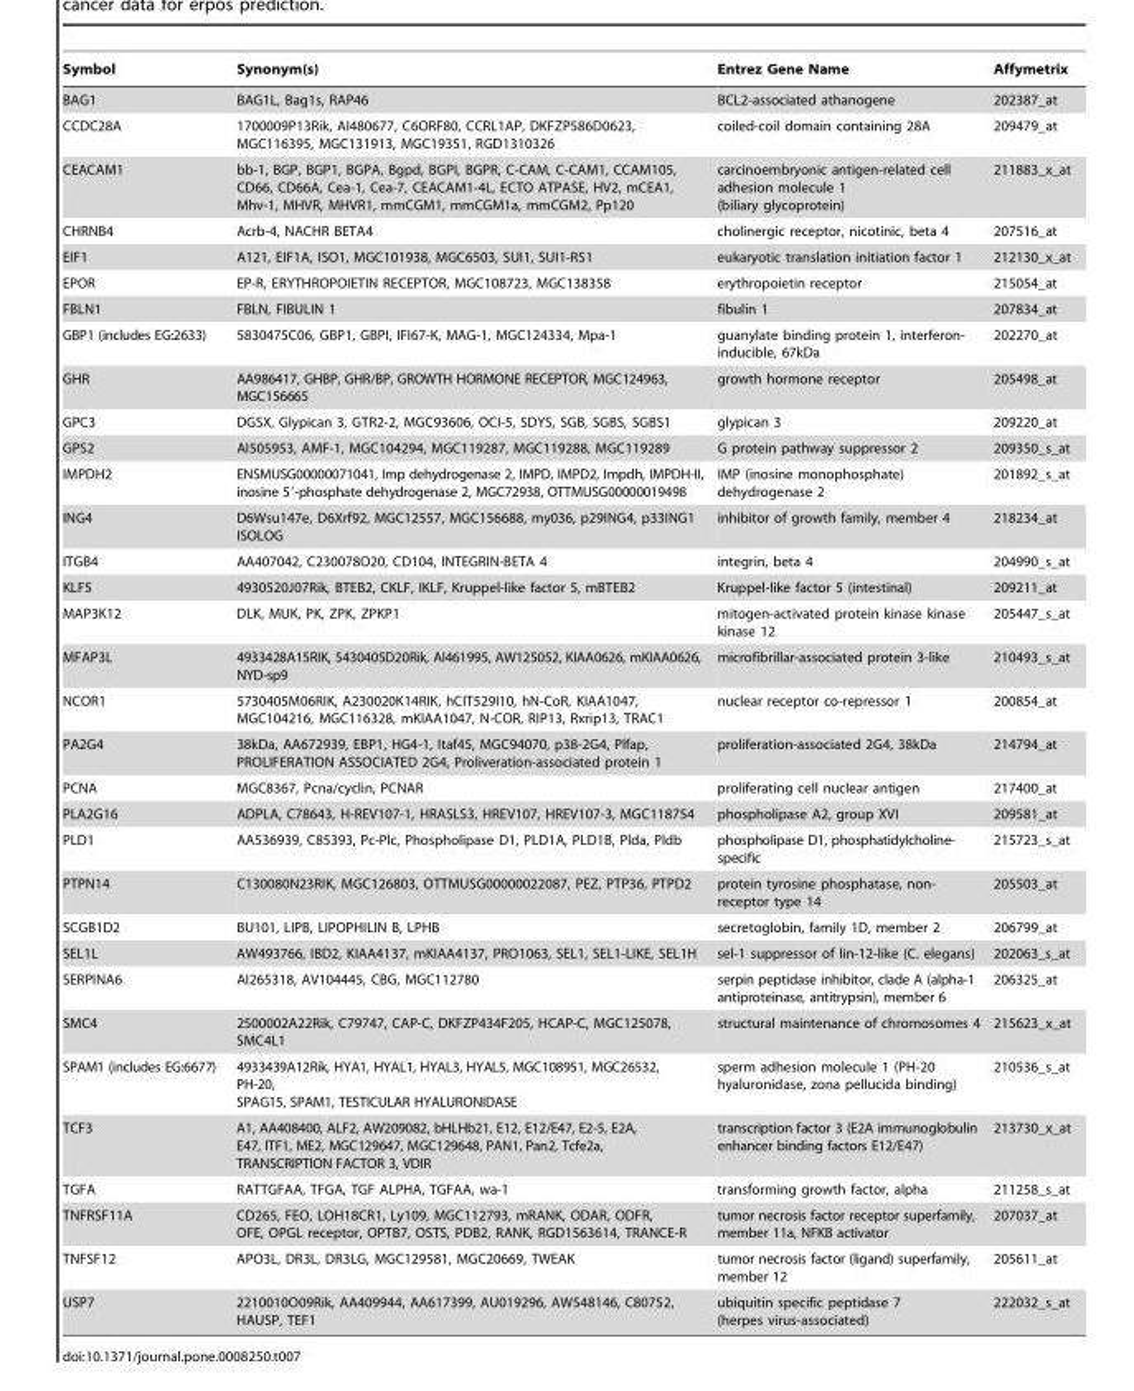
<table><thead><tr><td>Symbol</td><td>Synonym(s)</td><td>Entrez Gene Name</td><td>Affymetrix</td></tr></thead><tbody><tr><td>BAG1</td><td>BAG1L, Bag1s, RAP46</td><td>BCL2-associated athanogene</td><td>202387_at</td></tr><tr><td>CCDC28A</td><td>1700009P13Rik, AI480677, C6ORF80, CCRL1AP, DKFZP586D0623, MGC116395, MGC131913, MGC19351, RGD1310326</td><td>coiled-coil domain containing 28A</td><td>209479_at</td></tr><tr><td>CEACAM1</td><td>bb-1, BGP, BGP1, BGPA, Bgpd, BGPI, BGPR, C-CAM, C-CAM1, CCAM105, CD66, CD66A, Cea-1, Cea-7, CEACAM1-4L, ECTO ATPASE, HV2, mCEA1, Mhv-1, MHVR, MHVR1, mmCGM1, mmCGM1a, mmCGM2, Pp120</td><td>carcinoembryonic antigen-related cell adhesion molecule 1 (biliary glycoprotein)</td><td>211883_x_at</td></tr><tr><td>CHRNB4</td><td>Acrb-4, NACHR BETA4</td><td>cholinergic receptor, nicotinic, beta 4</td><td>207516_at</td></tr><tr><td>EIF1</td><td>A121, EIF1A, ISO1, MGC101938, MGC6503, SUI1, SUI1-RS1</td><td>eukaryotic translation initiation factor 1</td><td>212130_x_at</td></tr><tr><td>EPOR</td><td>EP-R, ERYTHROPOIETIN RECEPTOR, MGC108723, MGC138358</td><td>erythropoietin receptor</td><td>215054_at</td></tr><tr><td>FBLN1</td><td>FBLN, FIBULIN 1</td><td>fibulin 1</td><td>207834_at</td></tr><tr><td>GBP1 (includes EG:2633)</td><td>5830475C06, GBP1, GBPI, IFI67-K, MAG-1, MGC124334, Mpa-1</td><td>guanylate binding protein 1, interferon- inducible, 67kDa</td><td>202270_at</td></tr><tr><td>GHR</td><td>AA986417, GHBP, GHR/BP, GROWTH HORMONE RECEPTOR, MGC124963, MGC156665</td><td>growth hormone receptor</td><td>205498_at</td></tr><tr><td>GPC3</td><td>DGSX, Glypican 3, GTR2-2, MGC93606, OCI-5, SDYS, SGB, SGBS, SGBS1</td><td>glypican 3</td><td>209220_at</td></tr><tr><td>GPS2</td><td>AI505953, AMF-1, MGC104294, MGC119287, MGC119288, MGC119289</td><td>G protein pathway suppressor 2</td><td>209350_s_at</td></tr><tr><td>IMPDH2</td><td>ENSMUSG00000071041, Imp dehydrogenase 2, IMPD, IMPD2, Impdh, IMPDH-II, inosine 5′-phosphate dehydrogenase 2, MGC72938, OTTMUSG00000019498</td><td>IMP (inosine monophosphate) dehydrogenase 2</td><td>201892_s_at</td></tr><tr><td>ING4</td><td>D6Wsu147e, D6Xrf92, MGC12557, MGC156688, my036, p29ING4, p33ING1 ISOLOG</td><td>inhibitor of growth family, member 4</td><td>218234_at</td></tr><tr><td>ITGB4</td><td>AA407042, C230078O20, CD104, INTEGRIN-BETA 4</td><td>integrin, beta 4</td><td>204990_s_at</td></tr><tr><td>KLF5</td><td>4930520J07Rik, BTEB2, CKLF, IKLF, Kruppel-like factor 5, mBTEB2</td><td>Kruppel-like factor 5 (intestinal)</td><td>209211_at</td></tr><tr><td>MAP3K12</td><td>DLK, MUK, PK, ZPK, ZPKP1</td><td>mitogen-activated protein kinase kinase kinase 12</td><td>205447_s_at</td></tr><tr><td>MFAP3L</td><td>4933428A15RIK, 5430405D20Rik, AI461995, AW125052, KIAA0626, mKIAA0626, NYD-sp9</td><td>microfibrillar-associated protein 3-like</td><td>210493_s_at</td></tr><tr><td>NCOR1</td><td>5730405M06RIK, A230020K14RIK, hCIT529I10, hN-CoR, KIAA1047, MGC104216, MGC116328, mKIAA1047, N-COR, RIP13, Rxrip13, TRAC1</td><td>nuclear receptor co-repressor 1</td><td>200854_at</td></tr><tr><td>PA2G4</td><td>38kDa, AA672939, EBP1, HG4-1, Itaf45, MGC94070, p38-2G4, Plfap, PROLIFERATION ASSOCIATED 2G4, Proliveration-associated protein 1</td><td>proliferation-associated 2G4, 38kDa</td><td>214794_at</td></tr><tr><td>PCNA</td><td>MGC8367, Pcna/cyclin, PCNAR</td><td>proliferating cell nuclear antigen</td><td>217400_at</td></tr><tr><td>PLA2G16</td><td>ADPLA, C78643, H-REV107-1, HRASLS3, HREV107, HREV107-3, MGC118754</td><td>phospholipase A2, group XVI</td><td>209581_at</td></tr><tr><td>PLD1</td><td>AA536939, C85393, Pc-Plc, Phospholipase D1, PLD1A, PLD1B, Plda, Pldb</td><td>phospholipase D1, phosphatidylcholine- specific</td><td>215723_s_at</td></tr><tr><td>PTPN14</td><td>C130080N23RIK, MGC126803, OTTMUSG00000022087, PEZ, PTP36, PTPD2</td><td>protein tyrosine phosphatase, non- receptor type 14</td><td>205503_at</td></tr><tr><td>SCGB1D2</td><td>BU101, LIPB, LIPOPHILIN B, LPHB</td><td>secretoglobin, family 1D, member 2</td><td>206799_at</td></tr><tr><td>SEL1L</td><td>AW493766, IBD2, KIAA4137, mKIAA4137, PRO1063, SEL1, SEL1-LIKE, SEL1H</td><td>sel-1 suppressor of lin-12-like (C. elegans)</td><td>202063_s_at</td></tr><tr><td>SERPINA6</td><td>AI265318, AV104445, CBG, MGC112780</td><td>serpin peptidase inhibitor, clade A (alpha-1 antiproteinase, antitrypsin), member 6</td><td>206325_at</td></tr><tr><td>SMC4</td><td>2500002A22Rik, C79747, CAP-C, DKFZP434F205, HCAP-C, MGC125078, SMC4L1</td><td>structural maintenance of chromosomes 4</td><td>215623_x_at</td></tr><tr><td>SPAM1 (includes EG:6677)</td><td>4933439A12Rik, HYA1, HYAL1, HYAL3, HYAL5, MGC108951, MGC26532, PH-20, SPAG15, SPAM1, TESTICULAR HYALURONIDASE</td><td>sperm adhesion molecule 1 (PH-20 hyaluronidase, zona pellucida binding)</td><td>210536_s_at</td></tr><tr><td>TCF3</td><td>A1, AA408400, ALF2, AW209082, bHLHb21, E12, E12/E47, E2-5, E2A, E47, ITF1, ME2, MGC129647, MGC129648, PAN1, Pan2, Tcfe2a, TRANSCRIPTION FACTOR 3, VDIR</td><td>transcription factor 3 (E2A immunoglobulin enhancer binding factors E12/E47)</td><td>213730_x_at</td></tr><tr><td>TGFA</td><td>RATTGFAA, TFGA, TGF ALPHA, TGFAA, wa-1</td><td>transforming growth factor, alpha</td><td>211258_s_at</td></tr><tr><td>TNFRSF11A</td><td>CD265, FEO, LOH18CR1, Ly109, MGC112793, mRANK, ODAR, ODFR, OFE, OPGL receptor, OPTB7, OSTS, PDB2, RANK, RGD1563614, TRANCE-R</td><td>tumor necrosis factor receptor superfamily, member 11a, NFKB activator</td><td>207037_at</td></tr><tr><td>TNFSF12</td><td>APO3L, DR3L, DR3LG, MGC129581, MGC20669, TWEAK</td><td>tumor necrosis factor (ligand) superfamily, member 12</td><td>205611_at</td></tr><tr><td>USP7</td><td>2210010O09Rik, AA409944, AA617399, AU019296, AW548146, C80752, HAUSP, TEF1</td><td>ubiquitin specific peptidase 7 (herpes virus-associated)</td><td>222032_s_at</td></tr></tbody></table>